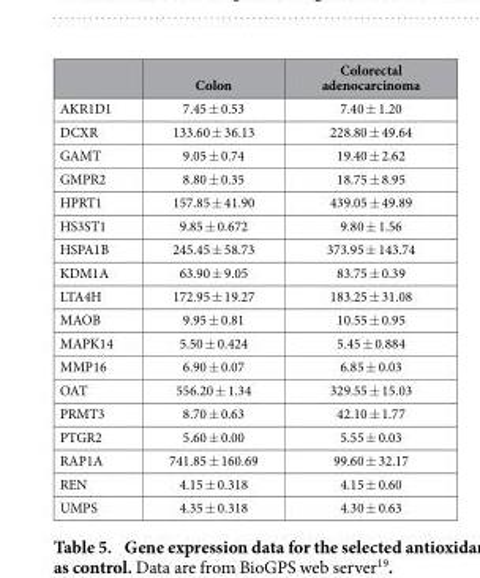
<table><thead><tr><td></td><td>Colon</td><td>Colorectal adenocarcinoma</td></tr></thead><tbody><tr><td>AKR1D1</td><td>7.45 ± 0.53</td><td>7.40 ± 1.20</td></tr><tr><td>DCXR</td><td>133.60 ± 36.13</td><td>228.80 ± 49.64</td></tr><tr><td>GAMT</td><td>9.05 ± 0.74</td><td>19.40 ± 2.62</td></tr><tr><td>GMPR2</td><td>8.80 ± 0.35</td><td>18.75 ± 8.95</td></tr><tr><td>HPRT1</td><td>157.85 ± 41.90</td><td>439.05 ± 49.89</td></tr><tr><td>HS3ST1</td><td>9.85 ± 0.672</td><td>9.80 ± 1.56</td></tr><tr><td>HSPA1B</td><td>245.45 ± 58.73</td><td>373.95 ± 143.74</td></tr><tr><td>KDM1A</td><td>63.90 ± 9.05</td><td>83.75 ± 0.39</td></tr><tr><td>LTA4H</td><td>172.95 ± 19.27</td><td>183.25 ± 31.08</td></tr><tr><td>MAOB</td><td>9.95 ± 0.81</td><td>10.55 ± 0.95</td></tr><tr><td>MAPK14</td><td>5.50 ± 0.424</td><td>5.45 ± 0.884</td></tr><tr><td>MMP16</td><td>6.90 ± 0.07</td><td>6.85 ± 0.03</td></tr><tr><td>OAT</td><td>556.20 ± 1.34</td><td>329.55 ± 15.03</td></tr><tr><td>PRMT3</td><td>8.70 ± 0.63</td><td>42.10 ± 1.77</td></tr><tr><td>PTGR2</td><td>5.60 ± 0.00</td><td>5.55 ± 0.03</td></tr><tr><td>RAP1A</td><td>741.85 ± 160.69</td><td>99.60 ± 32.17</td></tr><tr><td>REN</td><td>4.15 ± 0.318</td><td>4.15 ± 0.60</td></tr><tr><td>UMPS</td><td>4.35 ± 0.318</td><td>4.30 ± 0.63</td></tr></tbody></table>